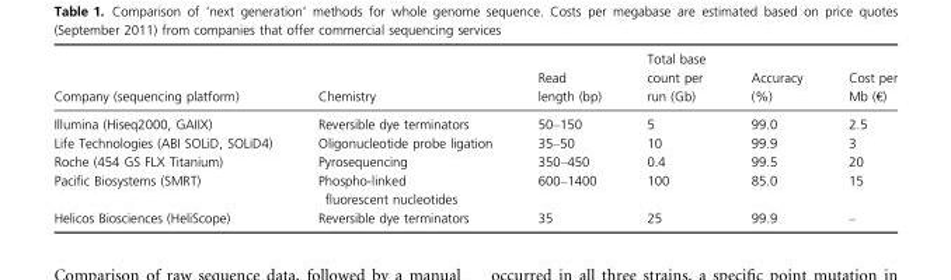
<table><thead><tr><td>Company (sequencing platform)</td><td>Chemistry</td><td>Read length (bp)</td><td>Total base count per run (Gb)</td><td>Accuracy (%)</td><td>Cost per Mb (€)</td></tr></thead><tbody><tr><td>Illumina (Hiseq2000, GAIIX)</td><td>Reversible dye terminators</td><td>50–150</td><td>5</td><td>99.0</td><td>2.5</td></tr><tr><td>Life Technologies (ABI SOLiD, SOLiD4)</td><td>Oligonucleotide probe ligation</td><td>35–50</td><td>10</td><td>99.9</td><td>3</td></tr><tr><td>Roche (454 GS FLX Titanium)</td><td>Pyrosequencing</td><td>350–450</td><td>0.4</td><td>99.5</td><td>20</td></tr><tr><td>Pacific Biosystems (SMRT)</td><td>Phospho-linked fluorescent nucleotides</td><td>600–1400</td><td>100</td><td>85.0</td><td>15</td></tr><tr><td>Helicos Biosciences (HeliScope)</td><td>Reversible dye terminators</td><td>35</td><td>25</td><td>99.9</td><td>–</td></tr></tbody></table>